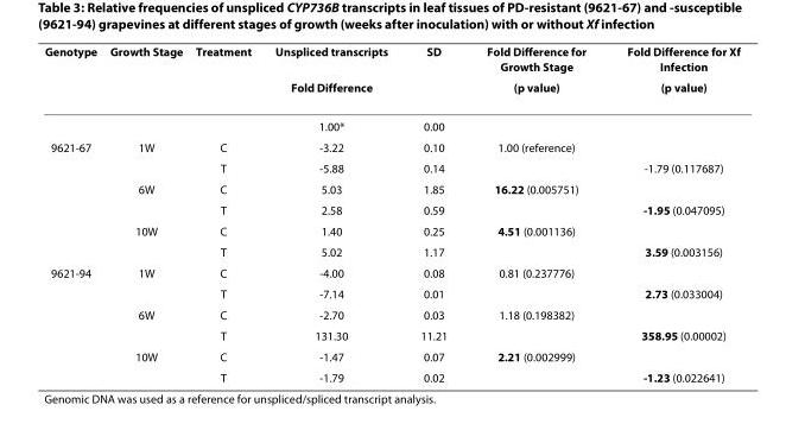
<table><thead><tr><td rowspan="2">Genotype</td><td rowspan="2">Growth Stage</td><td rowspan="2">Treatment</td><td rowspan="2">Unspliced transcripts Fold Difference</td><td rowspan="2">SD</td><td rowspan="2">Fold Difference for Growth Stage (p value)</td><td rowspan="2">Fold Difference for Xf Infection (p value)</td></tr><tr></tr></thead><tbody><tr><td></td><td></td><td></td><td>1.00*</td><td>0.00</td><td></td><td></td></tr><tr><td rowspan="6">9621-67</td><td>1W</td><td>C</td><td>-3.22</td><td>0.10</td><td>1.00 (reference)</td><td></td></tr><tr><td></td><td>T</td><td>-5.88</td><td>0.14</td><td></td><td>-1.79 (0.117687)</td></tr><tr><td>6W</td><td>C</td><td>5.03</td><td>1.85</td><td>16.22 (0.005751)</td><td></td></tr><tr><td></td><td>T</td><td>2.58</td><td>0.59</td><td></td><td>-1.95 (0.047095)</td></tr><tr><td>10W</td><td>C</td><td>1.40</td><td>0.25</td><td>4.51 (0.001136)</td><td></td></tr><tr><td></td><td>T</td><td>5.02</td><td>1.17</td><td></td><td>3.59 (0.003156)</td></tr><tr><td rowspan="6">9621-94</td><td>1W</td><td>C</td><td>-4.00</td><td>0.08</td><td>0.81 (0.237776)</td><td></td></tr><tr><td></td><td>T</td><td>-7.14</td><td>0.01</td><td></td><td>2.73 (0.033004)</td></tr><tr><td>6W</td><td>C</td><td>-2.70</td><td>0.03</td><td>1.18 (0.198382)</td><td></td></tr><tr><td></td><td>T</td><td>131.30</td><td>11.21</td><td></td><td>358.95 (0.00002)</td></tr><tr><td>10W</td><td>C</td><td>-1.47</td><td>0.07</td><td>2.21 (0.002999)</td><td></td></tr><tr><td></td><td>T</td><td>-1.79</td><td>0.02</td><td></td><td>-1.23 (0.022641)</td></tr></tbody></table>